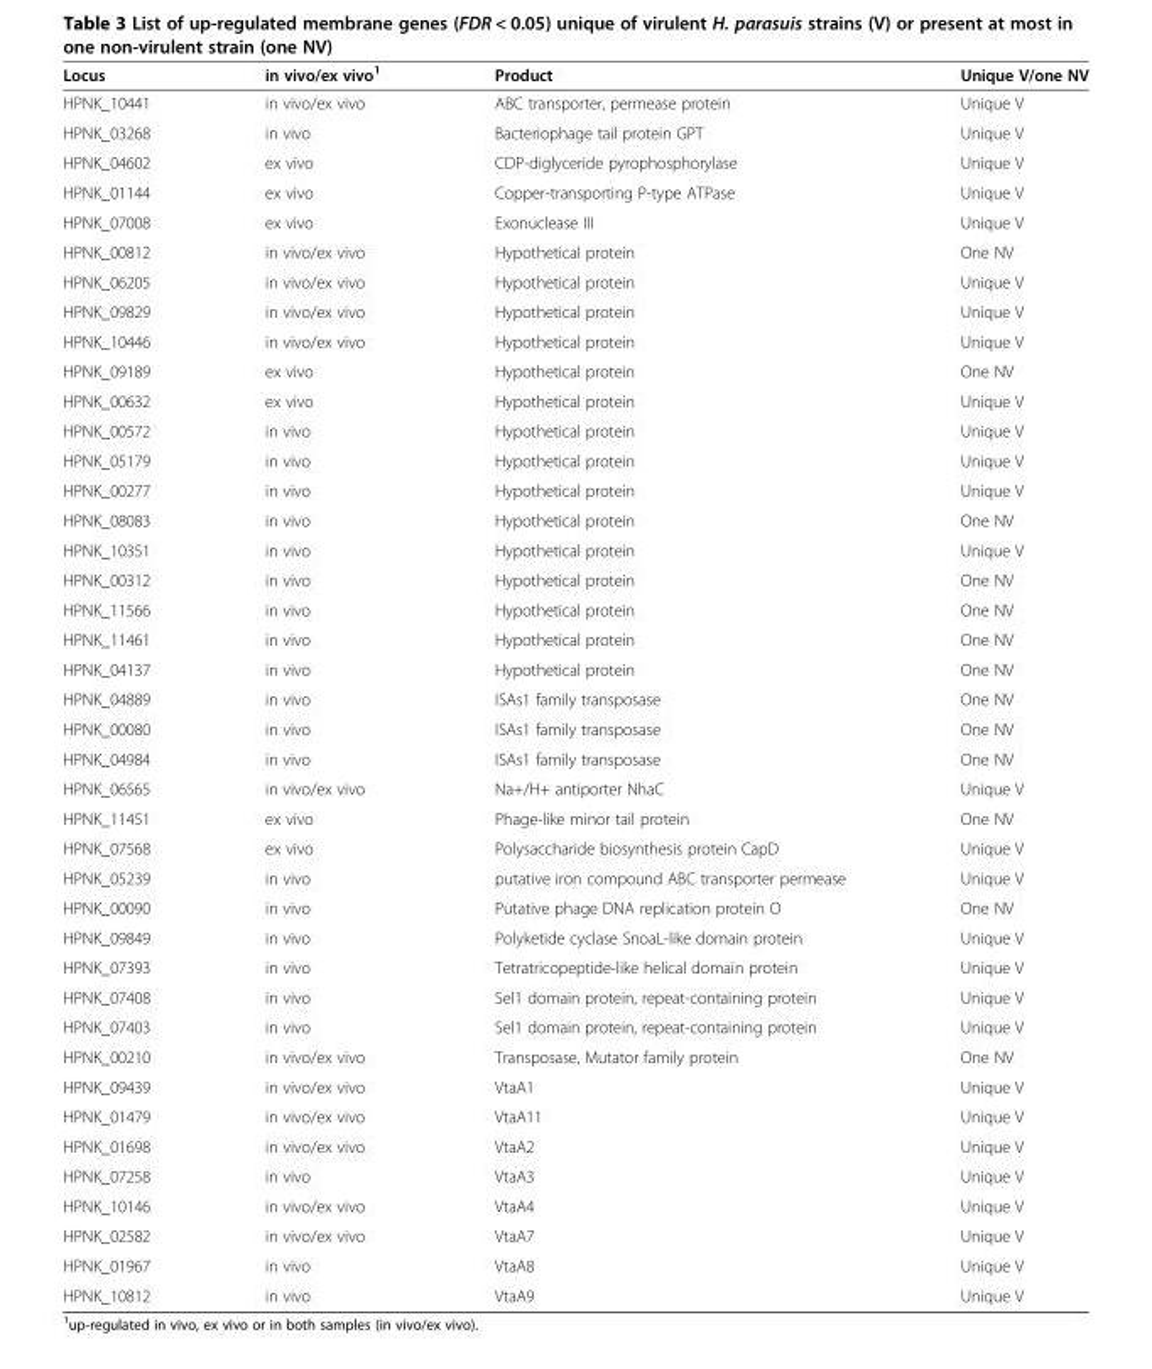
<table><thead><tr><td>Locus</td><td>in vivo/ex vivo<sup>1</sup></td><td>Product</td><td>Unique V/one NV</td></tr></thead><tbody><tr><td>HPNK_10441</td><td>in vivo/ex vivo</td><td>ABC transporter, permease protein</td><td>Unique V</td></tr><tr><td>HPNK_03268</td><td>in vivo</td><td>Bacteriophage tail protein GPT</td><td>Unique V</td></tr><tr><td>HPNK_04602</td><td>ex vivo</td><td>CDP-diglyceride pyrophosphorylase</td><td>Unique V</td></tr><tr><td>HPNK_01144</td><td>ex vivo</td><td>Copper-transporting P-type ATPase</td><td>Unique V</td></tr><tr><td>HPNK_07008</td><td>ex vivo</td><td>Exonuclease III</td><td>Unique V</td></tr><tr><td>HPNK_00812</td><td>in vivo/ex vivo</td><td>Hypothetical protein</td><td>One NV</td></tr><tr><td>HPNK_06205</td><td>in vivo/ex vivo</td><td>Hypothetical protein</td><td>Unique V</td></tr><tr><td>HPNK_09829</td><td>in vivo/ex vivo</td><td>Hypothetical protein</td><td>Unique V</td></tr><tr><td>HPNK_10446</td><td>in vivo/ex vivo</td><td>Hypothetical protein</td><td>Unique V</td></tr><tr><td>HPNK_09189</td><td>ex vivo</td><td>Hypothetical protein</td><td>One NV</td></tr><tr><td>HPNK_00632</td><td>ex vivo</td><td>Hypothetical protein</td><td>Unique V</td></tr><tr><td>HPNK_00572</td><td>in vivo</td><td>Hypothetical protein</td><td>Unique V</td></tr><tr><td>HPNK_05179</td><td>in vivo</td><td>Hypothetical protein</td><td>Unique V</td></tr><tr><td>HPNK_00277</td><td>in vivo</td><td>Hypothetical protein</td><td>Unique V</td></tr><tr><td>HPNK_08083</td><td>in vivo</td><td>Hypothetical protein</td><td>One NV</td></tr><tr><td>HPNK_10351</td><td>in vivo</td><td>Hypothetical protein</td><td>Unique V</td></tr><tr><td>HPNK_00312</td><td>in vivo</td><td>Hypothetical protein</td><td>One NV</td></tr><tr><td>HPNK_11566</td><td>in vivo</td><td>Hypothetical protein</td><td>One NV</td></tr><tr><td>HPNK_11461</td><td>in vivo</td><td>Hypothetical protein</td><td>One NV</td></tr><tr><td>HPNK_04137</td><td>in vivo</td><td>Hypothetical protein</td><td>One NV</td></tr><tr><td>HPNK_04889</td><td>in vivo</td><td>ISAs1 family transposase</td><td>One NV</td></tr><tr><td>HPNK_00080</td><td>in vivo</td><td>ISAs1 family transposase</td><td>One NV</td></tr><tr><td>HPNK_04984</td><td>in vivo</td><td>ISAs1 family transposase</td><td>One NV</td></tr><tr><td>HPNK_06565</td><td>in vivo/ex vivo</td><td>Na+/H+ antiporter NhaC</td><td>Unique V</td></tr><tr><td>HPNK_11451</td><td>ex vivo</td><td>Phage-like minor tail protein</td><td>One NV</td></tr><tr><td>HPNK_07568</td><td>ex vivo</td><td>Polysaccharide biosynthesis protein CapD</td><td>Unique V</td></tr><tr><td>HPNK_05239</td><td>in vivo</td><td>putative iron compound ABC transporter permease</td><td>Unique V</td></tr><tr><td>HPNK_00090</td><td>in vivo</td><td>Putative phage DNA replication protein O</td><td>One NV</td></tr><tr><td>HPNK_09849</td><td>in vivo</td><td>Polyketide cyclase SnoaL-like domain protein</td><td>Unique V</td></tr><tr><td>HPNK_07393</td><td>in vivo</td><td>Tetratricopeptide-like helical domain protein</td><td>Unique V</td></tr><tr><td>HPNK_07408</td><td>in vivo</td><td>Sel1 domain protein, repeat-containing protein</td><td>Unique V</td></tr><tr><td>HPNK_07403</td><td>in vivo</td><td>Sel1 domain protein, repeat-containing protein</td><td>Unique V</td></tr><tr><td>HPNK_00210</td><td>in vivo/ex vivo</td><td>Transposase, Mutator family protein</td><td>One NV</td></tr><tr><td>HPNK_09439</td><td>in vivo/ex vivo</td><td>VtaA1</td><td>Unique V</td></tr><tr><td>HPNK_01479</td><td>in vivo/ex vivo</td><td>VtaA11</td><td>Unique V</td></tr><tr><td>HPNK_01698</td><td>in vivo/ex vivo</td><td>VtaA2</td><td>Unique V</td></tr><tr><td>HPNK_07258</td><td>in vivo</td><td>VtaA3</td><td>Unique V</td></tr><tr><td>HPNK_10146</td><td>in vivo/ex vivo</td><td>VtaA4</td><td>Unique V</td></tr><tr><td>HPNK_02582</td><td>in vivo/ex vivo</td><td>VtaA7</td><td>Unique V</td></tr><tr><td>HPNK_01967</td><td>in vivo</td><td>VtaA8</td><td>Unique V</td></tr><tr><td>HPNK_10812</td><td>in vivo</td><td>VtaA9</td><td>Unique V</td></tr></tbody></table>